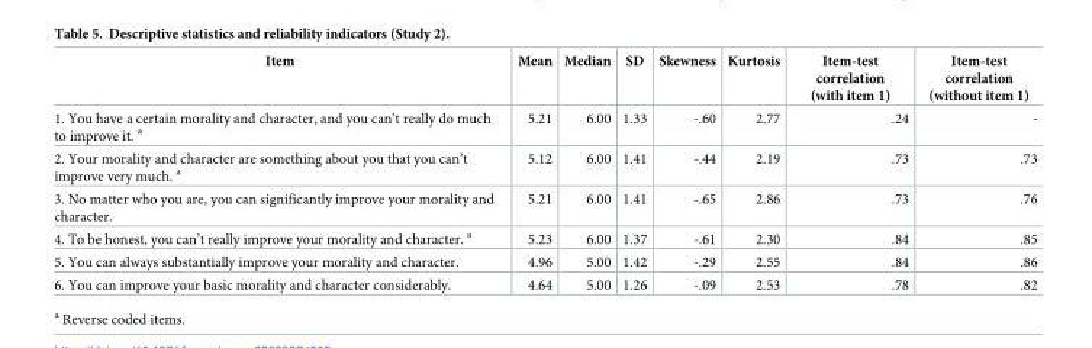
<table><thead><tr><td>Item</td><td>Mean</td><td>Median</td><td>SD</td><td>Skewness</td><td>Kurtosis</td><td>Item-test correlation (with item 1)</td><td>Item-test correlation (without item 1)</td></tr></thead><tbody><tr><td>1. You have a certain morality and character, and you can’t really do much to improve it. <sup>a</sup></td><td>5.21</td><td>6.00</td><td>1.33</td><td>-.60</td><td>2.77</td><td>.24</td><td>-</td></tr><tr><td>2. Your morality and character are something about you that you can’t improve very much. <sup>a</sup></td><td>5.12</td><td>6.00</td><td>1.41</td><td>-.44</td><td>2.19</td><td>.73</td><td>.73</td></tr><tr><td>3. No matter who you are, you can significantly improve your morality and character.</td><td>5.21</td><td>6.00</td><td>1.41</td><td>-.65</td><td>2.86</td><td>.73</td><td>.76</td></tr><tr><td>4. To be honest, you can’t really improve your morality and character. <sup>a</sup></td><td>5.23</td><td>6.00</td><td>1.37</td><td>-.61</td><td>2.30</td><td>.84</td><td>.85</td></tr><tr><td>5. You can always substantially improve your morality and character.</td><td>4.96</td><td>5.00</td><td>1.42</td><td>-.29</td><td>2.55</td><td>.84</td><td>.86</td></tr><tr><td>6. You can improve your basic morality and character considerably.</td><td>4.64</td><td>5.00</td><td>1.26</td><td>-.09</td><td>2.53</td><td>.78</td><td>.82</td></tr></tbody></table>